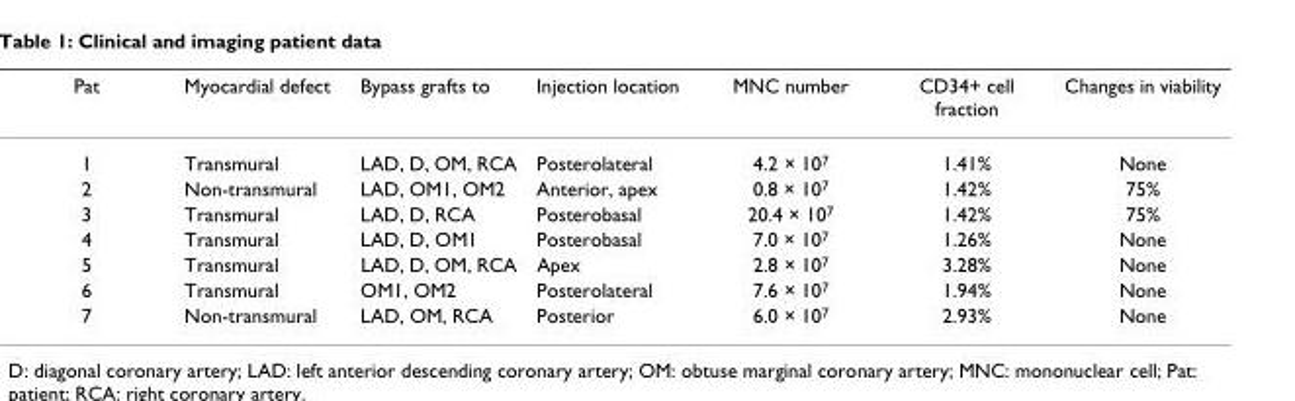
<table><thead><tr><td>Pat</td><td>Myocardial defect</td><td>Bypass grafts to</td><td>Injection location</td><td>MNC number</td><td>CD34+ cell fraction</td><td>Changes in viability</td></tr></thead><tbody><tr><td>1</td><td>Transmural</td><td>LAD, D, OM, RCA</td><td>Posterolateral</td><td>4.2 × 107</td><td>1.41%</td><td>None</td></tr><tr><td>2</td><td>Non-transmural</td><td>LAD, OM1, OM2</td><td>Anterior, apex</td><td>0.8 × 107</td><td>1.42%</td><td>75%</td></tr><tr><td>3</td><td>Transmural</td><td>LAD, D, RCA</td><td>Posterobasal</td><td>20.4 × 107</td><td>1.42%</td><td>75%</td></tr><tr><td>4</td><td>Transmural</td><td>LAD, D, OM1</td><td>Posterobasal</td><td>7.0 × 107</td><td>1.26%</td><td>None</td></tr><tr><td>5</td><td>Transmural</td><td>LAD, D, OM, RCA</td><td>Apex</td><td>2.8 × 107</td><td>3.28%</td><td>None</td></tr><tr><td>6</td><td>Transmural</td><td>OM1, OM2</td><td>Posterolateral</td><td>7.6 × 107</td><td>1.94%</td><td>None</td></tr><tr><td>7</td><td>Non-transmural</td><td>LAD, OM, RCA</td><td>Posterior</td><td>6.0 × 107</td><td>2.93%</td><td>None</td></tr></tbody></table>